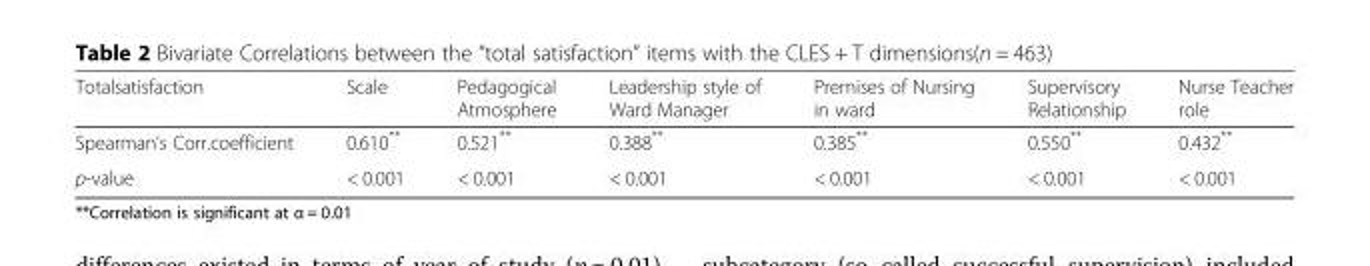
<table><thead><tr><td>Totalsatisfaction</td><td>Scale</td><td>Pedagogical Atmosphere</td><td>Leadership style of Ward Manager</td><td>Premises of Nursing in ward</td><td>Supervisory Relationship</td><td>Nurse Teacher role</td></tr></thead><tbody><tr><td>Spearman’s Corr.coefficient</td><td>0.610**</td><td>0.521**</td><td>0.388**</td><td>0.385**</td><td>0.550**</td><td>0.432**</td></tr><tr><td>p-value</td><td>&lt; 0.001</td><td>&lt; 0.001</td><td>&lt; 0.001</td><td>&lt; 0.001</td><td>&lt; 0.001</td><td>&lt; 0.001</td></tr></tbody></table>